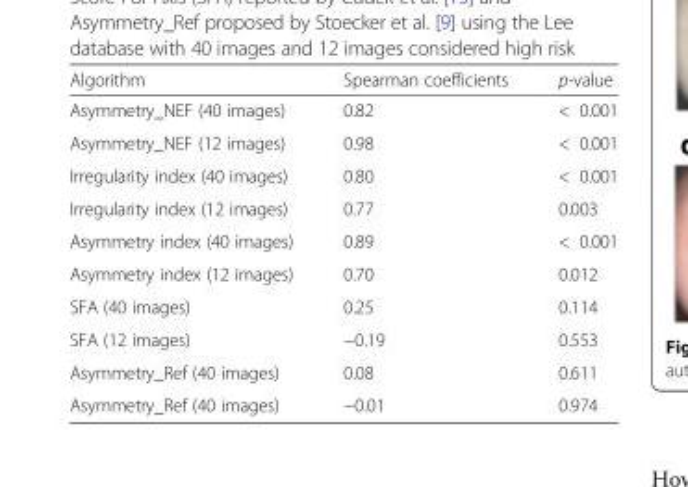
<table><thead><tr><td>Algorithm</td><td>Spearman coefficients</td><td>p-value</td></tr></thead><tbody><tr><td>Asymmetry_NEF (40 images)</td><td>0.82</td><td>&lt; 0.001</td></tr><tr><td>Asymmetry_NEF (12 images)</td><td>0.98</td><td>&lt; 0.001</td></tr><tr><td>Irregularity index (40 images)</td><td>0.80</td><td>&lt; 0.001</td></tr><tr><td>Irregularity index (12 images)</td><td>0.77</td><td>0.003</td></tr><tr><td>Asymmetry index (40 images)</td><td>0.89</td><td>&lt; 0.001</td></tr><tr><td>Asymmetry index (12 images)</td><td>0.70</td><td>0.012</td></tr><tr><td>SFA (40 images)</td><td>0.25</td><td>0.114</td></tr><tr><td>SFA (12 images)</td><td>−0.19</td><td>0.553</td></tr><tr><td>Asymmetry_Ref (40 images)</td><td>0.08</td><td>0.611</td></tr><tr><td>Asymmetry_Ref (40 images)</td><td>−0.01</td><td>0.974</td></tr></tbody></table>